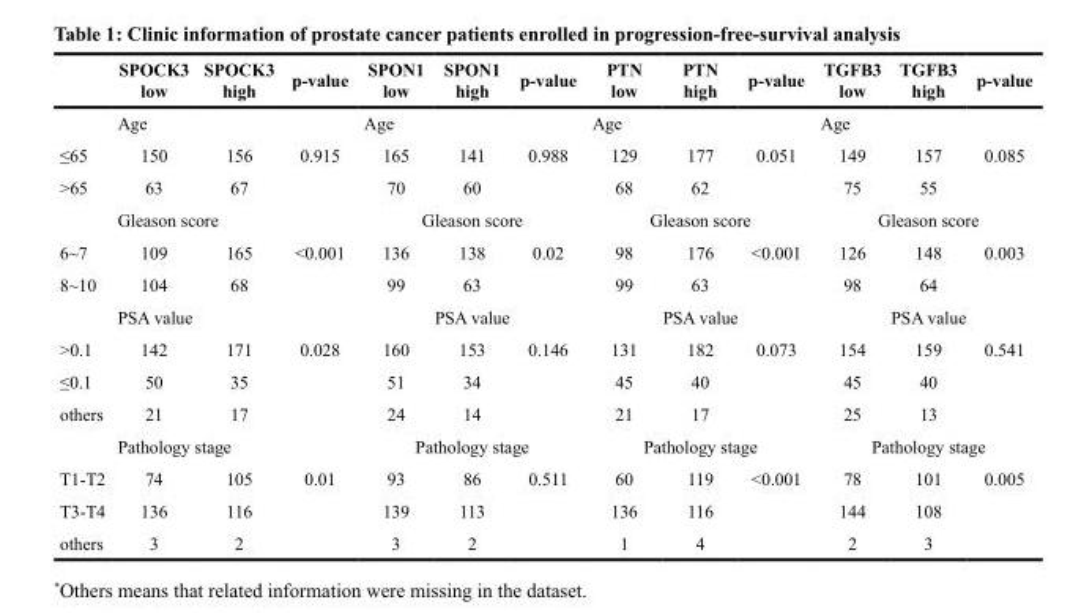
<table><thead><tr><td></td><td>SPOCK3 low</td><td>SPOCK3 high</td><td>p-value</td><td>SPON1 low</td><td>SPON1 high</td><td>p-value</td><td>PTN low</td><td>PTN high</td><td>p-value</td><td>TGFB3 low</td><td>TGFB3 high</td><td>p-value</td></tr></thead><tbody><tr><td></td><td>Age</td><td></td><td></td><td>Age</td><td></td><td></td><td>Age</td><td></td><td></td><td>Age</td><td></td><td></td></tr><tr><td>≤65</td><td>150</td><td>156</td><td>0.915</td><td>165</td><td>141</td><td>0.988</td><td>129</td><td>177</td><td>0.051</td><td>149</td><td>157</td><td>0.085</td></tr><tr><td>&gt;65</td><td>63</td><td>67</td><td></td><td>70</td><td>60</td><td></td><td>68</td><td>62</td><td></td><td>75</td><td>55</td><td></td></tr><tr><td colspan="3">Gleason score</td><td></td><td colspan="3">Gleason score</td><td colspan="3">Gleason score</td><td colspan="3">Gleason score</td></tr><tr><td>6~7</td><td>109</td><td>165</td><td>&lt;0.001</td><td>136</td><td>138</td><td>0.02</td><td>98</td><td>176</td><td>&lt;0.001</td><td>126</td><td>148</td><td>0.003</td></tr><tr><td>8~10</td><td>104</td><td>68</td><td></td><td>99</td><td>63</td><td></td><td>99</td><td>63</td><td></td><td>98</td><td>64</td><td></td></tr><tr><td colspan="3">PSA value</td><td></td><td colspan="3">PSA value</td><td colspan="3">PSA value</td><td colspan="3">PSA value</td></tr><tr><td>&gt;0.1</td><td>142</td><td>171</td><td>0.028</td><td>160</td><td>153</td><td>0.146</td><td>131</td><td>182</td><td>0.073</td><td>154</td><td>159</td><td>0.541</td></tr><tr><td>≤0.1</td><td>50</td><td>35</td><td></td><td>51</td><td>34</td><td></td><td>45</td><td>40</td><td></td><td>45</td><td>40</td><td></td></tr><tr><td>others</td><td>21</td><td>17</td><td></td><td>24</td><td>14</td><td></td><td>21</td><td>17</td><td></td><td>25</td><td>13</td><td></td></tr><tr><td colspan="3">Pathology stage</td><td></td><td colspan="3">Pathology stage</td><td colspan="3">Pathology stage</td><td colspan="3">Pathology stage</td></tr><tr><td>T1-T2</td><td>74</td><td>105</td><td>0.01</td><td>93</td><td>86</td><td>0.511</td><td>60</td><td>119</td><td>&lt;0.001</td><td>78</td><td>101</td><td>0.005</td></tr><tr><td>T3-T4</td><td>136</td><td>116</td><td></td><td>139</td><td>113</td><td></td><td>136</td><td>116</td><td></td><td>144</td><td>108</td><td></td></tr><tr><td>others</td><td>3</td><td>2</td><td></td><td>3</td><td>2</td><td></td><td>1</td><td>4</td><td></td><td>2</td><td>3</td><td></td></tr></tbody></table>